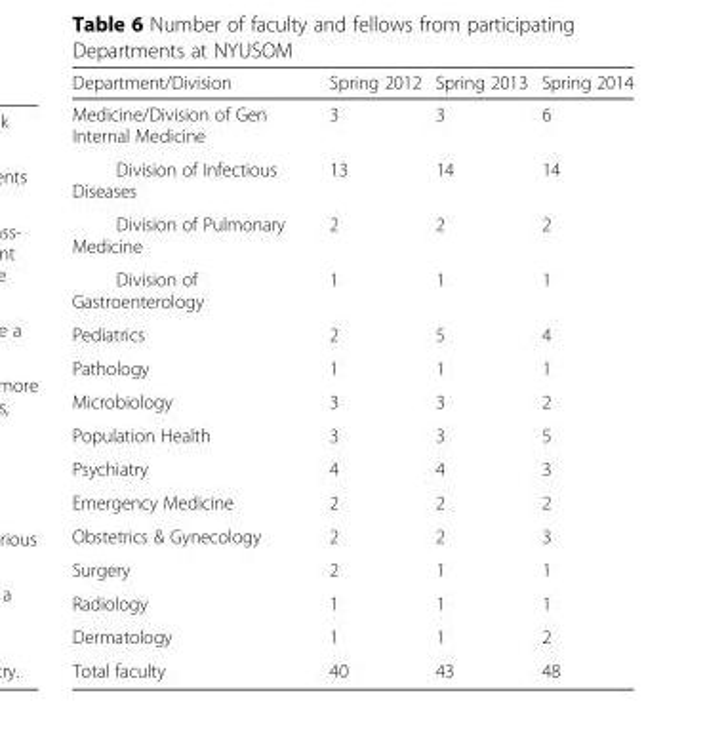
<table><thead><tr><td>Department/Division</td><td>Spring 2012</td><td>Spring 2013</td><td>Spring 2014</td></tr></thead><tbody><tr><td>Medicine/Division of Gen Internal Medicine</td><td>3</td><td>3</td><td>6</td></tr><tr><td>Division of Infectious Diseases</td><td>13</td><td>14</td><td>14</td></tr><tr><td>Division of Pulmonary Medicine</td><td>2</td><td>2</td><td>2</td></tr><tr><td>Division of Gastroenterology</td><td>1</td><td>1</td><td>1</td></tr><tr><td>Pediatrics</td><td>2</td><td>5</td><td>4</td></tr><tr><td>Pathology</td><td>1</td><td>1</td><td>1</td></tr><tr><td>Microbiology</td><td>3</td><td>3</td><td>2</td></tr><tr><td>Population Health</td><td>3</td><td>3</td><td>5</td></tr><tr><td>Psychiatry</td><td>4</td><td>4</td><td>3</td></tr><tr><td>Emergency Medicine</td><td>2</td><td>2</td><td>2</td></tr><tr><td>Obstetrics &amp; Gynecology</td><td>2</td><td>2</td><td>3</td></tr><tr><td>Surgery</td><td>2</td><td>1</td><td>1</td></tr><tr><td>Radiology</td><td>1</td><td>1</td><td>1</td></tr><tr><td>Dermatology</td><td>1</td><td>1</td><td>2</td></tr><tr><td>Total faculty</td><td>40</td><td>43</td><td>48</td></tr></tbody></table>